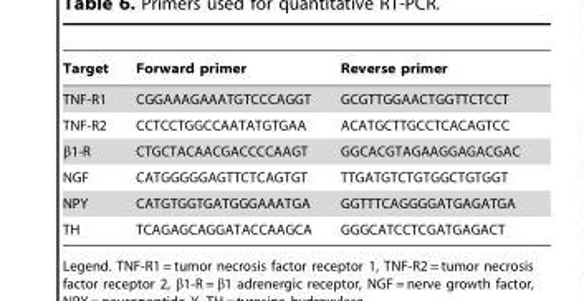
<table><thead><tr><td>Target</td><td>Forward primer</td><td>Reverse primer</td></tr></thead><tbody><tr><td>TNF-R1</td><td>CGGAAAGAAATGTCCCAGGT</td><td>GCGTTGGAACTGGTTCTCCT</td></tr><tr><td>TNF-R2</td><td>CCTCCTGGCCAATATGTGAA</td><td>ACATGCTTGCCTCACAGTCC</td></tr><tr><td>β1-R</td><td>CTGCTACAACGACCCCAAGT</td><td>GGCACGTAGAAGGAGACGAC</td></tr><tr><td>NGF</td><td>CATGGGGGAGTTCTCAGTGT</td><td>TTGATGTCTGTGGCTGTGGT</td></tr><tr><td>NPY</td><td>CATGTGGTGATGGGAAATGA</td><td>GGTTTCAGGGGATGAGATGA</td></tr><tr><td>TH</td><td>TCAGAGCAGGATACCAAGCA</td><td>GGGCATCCTCGATGAGACT</td></tr></tbody></table>